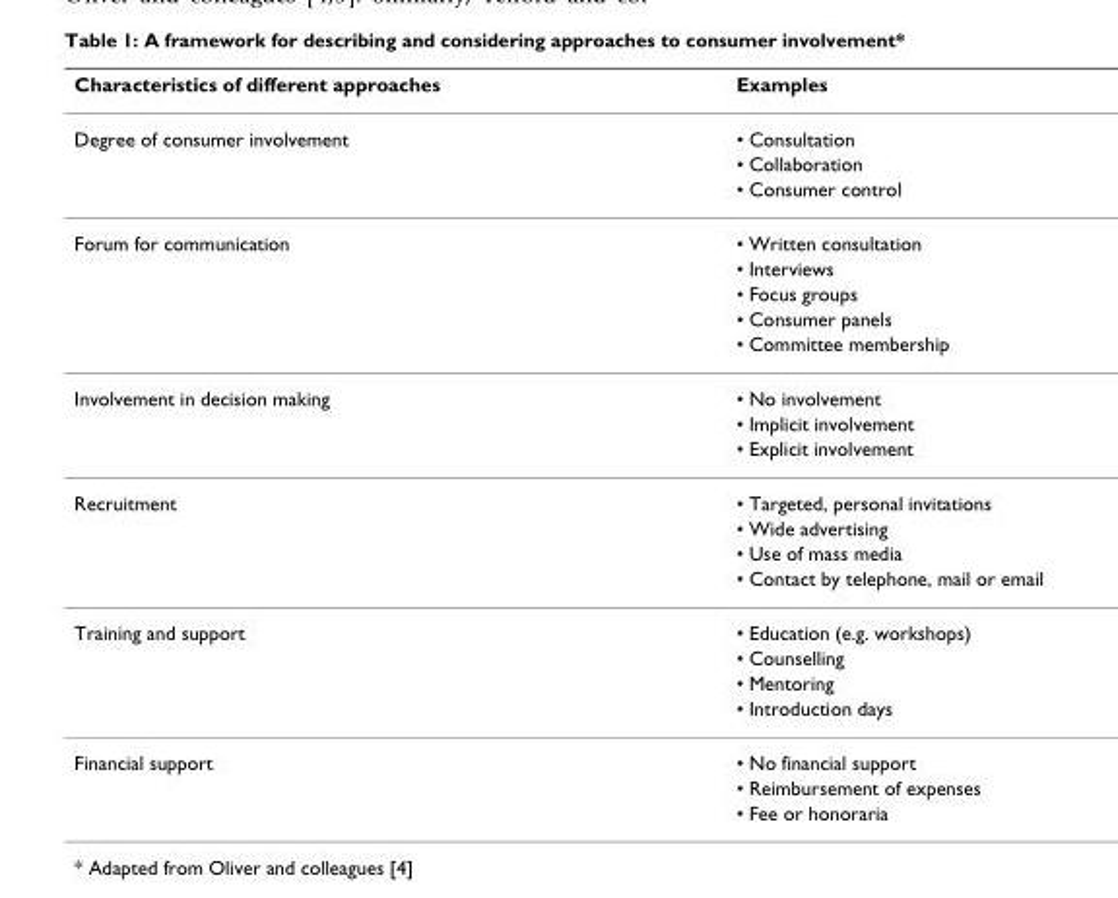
<table><thead><tr><td>Characteristics of different approaches</td><td>Examples</td></tr></thead><tbody><tr><td rowspan="3">Degree of consumer involvement</td><td>• Consultation</td></tr><tr><td>• Collaboration</td></tr><tr><td>• Consumer control</td></tr><tr><td rowspan="5">Forum for communication</td><td>• Written consultation</td></tr><tr><td>• Interviews</td></tr><tr><td>• Focus groups</td></tr><tr><td>• Consumer panels</td></tr><tr><td>• Committee membership</td></tr><tr><td rowspan="3">Involvement in decision making</td><td>• No involvement</td></tr><tr><td>• Implicit involvement</td></tr><tr><td>• Explicit involvement</td></tr><tr><td rowspan="4">Recruitment</td><td>• Targeted, personal invitations</td></tr><tr><td>• Wide advertising</td></tr><tr><td>• Use of mass media</td></tr><tr><td>• Contact by telephone, mail or email</td></tr><tr><td rowspan="4">Training and support</td><td>• Education (e.g. workshops)</td></tr><tr><td>• Counselling</td></tr><tr><td>• Mentoring</td></tr><tr><td>• Introduction days</td></tr><tr><td rowspan="3">Financial support</td><td>• No financial support</td></tr><tr><td>• Reimbursement of expenses</td></tr><tr><td>• Fee or honoraria</td></tr></tbody></table>